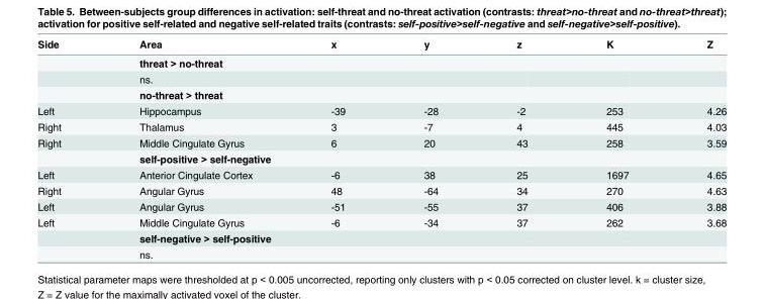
<table><thead><tr><td>Side</td><td>Area</td><td>x</td><td>y</td><td>z</td><td>K</td><td>Z</td></tr></thead><tbody><tr><td></td><td colspan="6">threat &gt; no-threat</td></tr><tr><td></td><td>ns.</td><td></td><td></td><td></td><td></td><td></td></tr><tr><td></td><td colspan="6">no-threat &gt; threat</td></tr><tr><td>Left</td><td>Hippocampus</td><td>-39</td><td>-28</td><td>-2</td><td>253</td><td>4.26</td></tr><tr><td>Right</td><td>Thalamus</td><td>3</td><td>-7</td><td>4</td><td>445</td><td>4.03</td></tr><tr><td rowspan="2">Right</td><td>Middle Cingulate Gyrus</td><td>6</td><td>20</td><td>43</td><td>258</td><td>3.59</td></tr><tr><td colspan="6">self-positive &gt; self-negative</td></tr><tr><td>Left</td><td>Anterior Cingulate Cortex</td><td>-6</td><td>38</td><td>25</td><td>1697</td><td>4.65</td></tr><tr><td>Right</td><td>Angular Gyrus</td><td>48</td><td>-64</td><td>34</td><td>270</td><td>4.63</td></tr><tr><td>Left</td><td>Angular Gyrus</td><td>-51</td><td>-55</td><td>37</td><td>406</td><td>3.88</td></tr><tr><td rowspan="3">Left</td><td>Middle Cingulate Gyrus</td><td>-6</td><td>-34</td><td>37</td><td>262</td><td>3.68</td></tr><tr><td colspan="6">self-negative &gt; self-positive</td></tr><tr><td>ns.</td><td></td><td></td><td></td><td></td><td></td></tr></tbody></table>